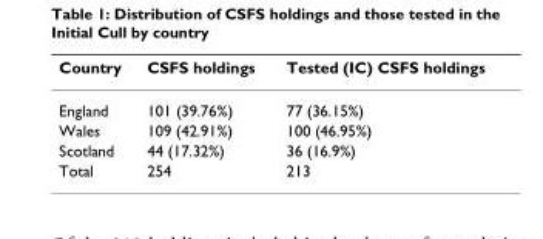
<table><thead><tr><td>Country</td><td>CSFS holdings</td><td>Tested (IC) CSFS holdings</td></tr></thead><tbody><tr><td>England</td><td>101 (39.76%)</td><td>77 (36.15%)</td></tr><tr><td>Wales</td><td>109 (42.91%)</td><td>100 (46.95%)</td></tr><tr><td>Scotland</td><td>44 (17.32%)</td><td>36 (16.9%)</td></tr><tr><td>Total</td><td>254</td><td>213</td></tr></tbody></table>